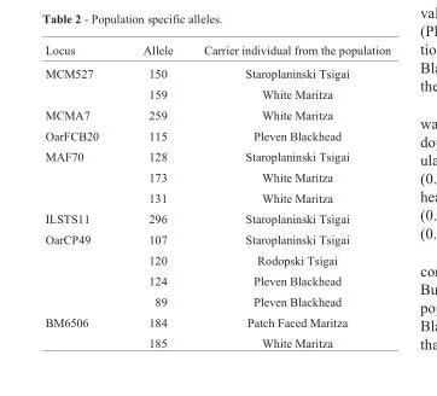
<table><thead><tr><td>Locus</td><td>Allele</td><td>Carrier individual from the population</td></tr></thead><tbody><tr><td rowspan="2">MCM527</td><td>150</td><td>Staroplaninski Tsigai</td></tr><tr><td>159</td><td>White Maritza</td></tr><tr><td>MCMA7</td><td>259</td><td>White Maritza</td></tr><tr><td>OarFCB20</td><td>115</td><td>Pleven Blackhead</td></tr><tr><td rowspan="3">MAF70</td><td>128</td><td>Staroplaninski Tsigai</td></tr><tr><td>173</td><td>White Maritza</td></tr><tr><td>131</td><td>White Maritza</td></tr><tr><td>ILSTS11</td><td>296</td><td>Staroplaninski Tsigai</td></tr><tr><td rowspan="4">OarCP49</td><td>107</td><td>Staroplaninski Tsigai</td></tr><tr><td>120</td><td>Rodopski Tsigai</td></tr><tr><td>124</td><td>Pleven Blackhead</td></tr><tr><td>89</td><td>Pleven Blackhead</td></tr><tr><td rowspan="2">BM6506</td><td>184</td><td>Patch Faced Maritza</td></tr><tr><td>185</td><td>White Maritza</td></tr></tbody></table>